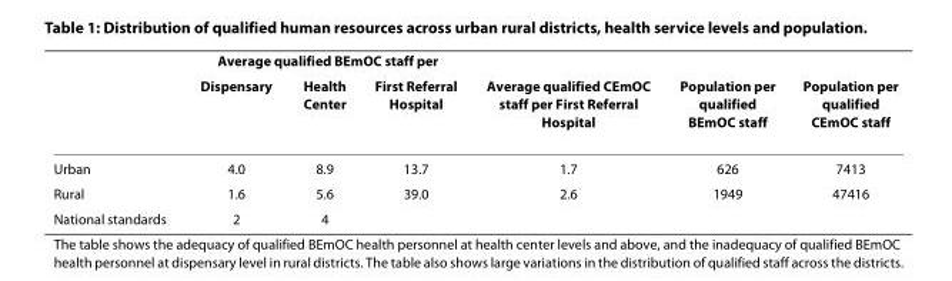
<table><thead><tr><td rowspan="2"></td><td colspan="3">Average qualified BEmOC staff per</td><td rowspan="2">Average qualified CEmOC staff per First Referral Hospital</td><td rowspan="2">Population per qualified BEmOC staff</td><td rowspan="2">Population per qualified CEmOC staff</td></tr><tr><td>Dispensary</td><td>Health Center</td><td>First Referral Hospital</td></tr></thead><tbody><tr><td>Urban</td><td>4.0</td><td>8.9</td><td>13.7</td><td>1.7</td><td>626</td><td>7413</td></tr><tr><td>Rural</td><td>1.6</td><td>5.6</td><td>39.0</td><td>2.6</td><td>1949</td><td>47416</td></tr><tr><td>National standards</td><td>2</td><td>4</td><td></td><td></td><td></td><td></td></tr></tbody></table>